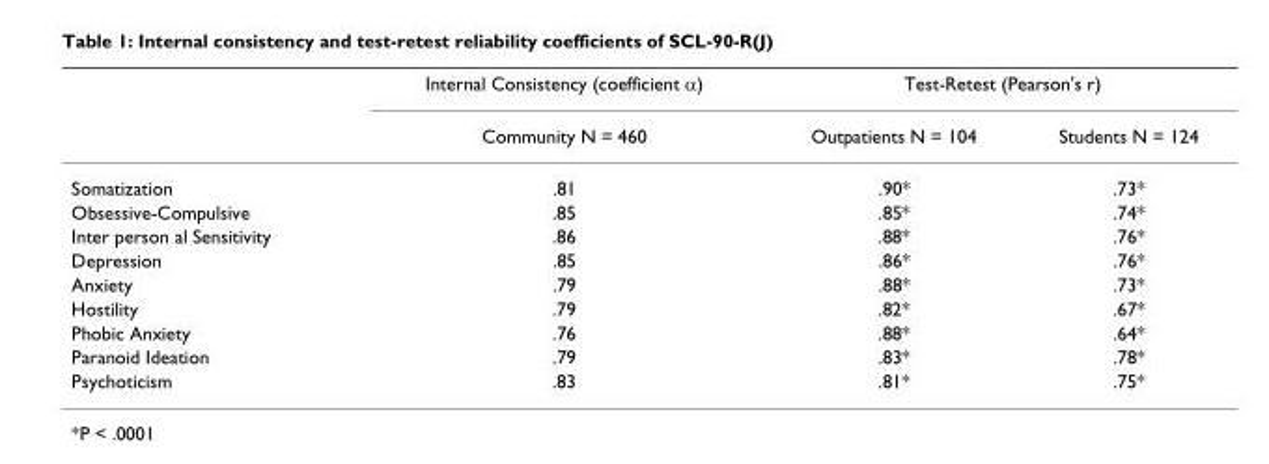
<table><thead><tr><td rowspan="2"></td><td rowspan="2">Internal Consistency (coefficient α) Community N = 460</td><td colspan="2">Test-Retest (Pearson&#x27;s r)</td></tr><tr><td>Outpatients N = 104</td><td>Students N = 124</td></tr></thead><tbody><tr><td>Somatization</td><td>.81</td><td>.90*</td><td>.73*</td></tr><tr><td>Obsessive-Compulsive</td><td>.85</td><td>.85*</td><td>.74*</td></tr><tr><td>Inter person al Sensitivity</td><td>.86</td><td>.88*</td><td>.76*</td></tr><tr><td>Depression</td><td>.85</td><td>.86*</td><td>.76*</td></tr><tr><td>Anxiety</td><td>.79</td><td>.88*</td><td>.73*</td></tr><tr><td>Hostility</td><td>.79</td><td>.82*</td><td>.67*</td></tr><tr><td>Phobic Anxiety</td><td>.76</td><td>.88*</td><td>.64*</td></tr><tr><td>Paranoid Ideation</td><td>.79</td><td>.83*</td><td>.78*</td></tr><tr><td>Psychoticism</td><td>.83</td><td>.81*</td><td>.75*</td></tr></tbody></table>